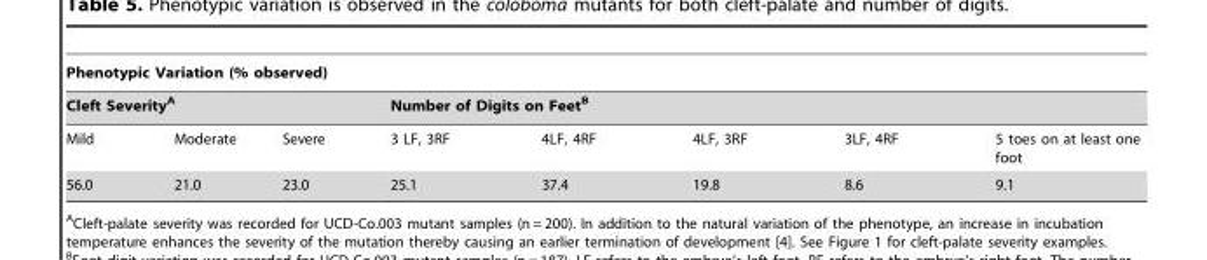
<table><thead><tr><td colspan="8">Phenotypic Variation (% observed)</td></tr><tr><td colspan="3">Cleft Severity<sup>A</sup></td><td colspan="5">Number of Digits on Feet<sup>B</sup></td></tr><tr><td>Mild</td><td>Moderate</td><td>Severe</td><td>3 LF, 3RF</td><td>4LF, 4RF</td><td>4LF, 3RF</td><td>3LF, 4RF</td><td>5 toes on at least one foot</td></tr></thead><tbody><tr><td>56.0</td><td>21.0</td><td>23.0</td><td>25.1</td><td>37.4</td><td>19.8</td><td>8.6</td><td>9.1</td></tr></tbody></table>